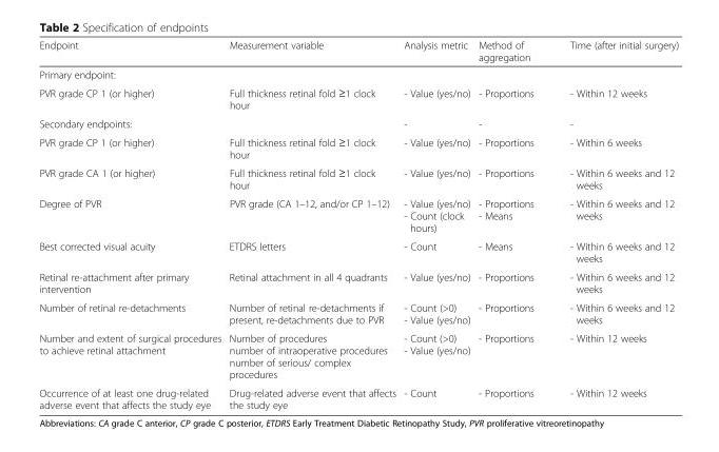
<table><thead><tr><td>Endpoint</td><td>Measurement variable</td><td>Analysis metric</td><td>Method of aggregation</td><td>Time (after initial surgery)</td></tr></thead><tbody><tr><td colspan="5">Primary endpoint:</td></tr><tr><td>PVR grade CP 1 (or higher)</td><td>Full thickness retinal fold ≥1 clock hour</td><td>- Value (yes/no)</td><td>- Proportions</td><td>- Within 12 weeks</td></tr><tr><td>Secondary endpoints:</td><td></td><td>-</td><td>-</td><td>-</td></tr><tr><td>PVR grade CP 1 (or higher)</td><td>Full thickness retinal fold ≥1 clock hour</td><td>- Value (yes/no)</td><td>- Proportions</td><td>- Within 6 weeks</td></tr><tr><td>PVR grade CA 1 (or higher)</td><td>Full thickness retinal fold ≥1 clock hour</td><td>- Value (yes/no)</td><td>- Proportions</td><td>- Within 6 weeks and 12 weeks</td></tr><tr><td>Degree of PVR</td><td>PVR grade (CA 1–12, and/or CP 1–12)</td><td>- Value (yes/no) - Count (clock hours)</td><td>- Proportions - Means</td><td>- Within 6 weeks and 12 weeks</td></tr><tr><td>Best corrected visual acuity</td><td>ETDRS letters</td><td>- Count</td><td>- Means</td><td>- Within 6 weeks and 12 weeks</td></tr><tr><td>Retinal re-attachment after primary intervention</td><td>Retinal attachment in all 4 quadrants</td><td>- Value (yes/no)</td><td>- Proportions</td><td>- Within 6 weeks and 12 weeks</td></tr><tr><td>Number of retinal re-detachments</td><td>Number of retinal re-detachments if present, re-detachments due to PVR</td><td>- Count (&gt;0) - Value (yes/no)</td><td>- Proportions</td><td>- Within 6 weeks and 12 weeks</td></tr><tr><td>Number and extent of surgical procedures to achieve retinal attachment</td><td>Number of procedures number of intraoperative procedures number of serious/ complex procedures</td><td>- Count (&gt;0) - Value (yes/no)</td><td>- Proportions</td><td>- Within 12 weeks</td></tr><tr><td>Occurrence of at least one drug-related adverse event that affects the study eye</td><td>Drug-related adverse event that affects the study eye</td><td>- Count</td><td>- Proportions</td><td>- Within 12 weeks</td></tr></tbody></table>